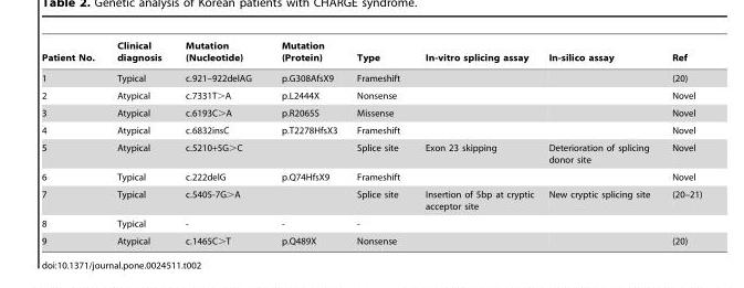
<table><thead><tr><td>Patient No.</td><td>Clinical diagnosis</td><td>Mutation (Nucleotide)</td><td>Mutation (Protein)</td><td>Type</td><td>In-vitro splicing assay</td><td>In-silico assay</td><td>Ref</td></tr></thead><tbody><tr><td>1</td><td>Typical</td><td>c.921–922delAG</td><td>p.G308AfsX9</td><td>Frameshift</td><td></td><td></td><td>(20)</td></tr><tr><td>2</td><td>Atypical</td><td>c.7331T&gt;A</td><td>p.L2444X</td><td>Nonsense</td><td></td><td></td><td>Novel</td></tr><tr><td>3</td><td>Atypical</td><td>c.6193C&gt;A</td><td>p.R2065S</td><td>Missense</td><td></td><td></td><td>Novel</td></tr><tr><td>4</td><td>Atypical</td><td>c.6832insC</td><td>p.T2278HfsX3</td><td>Frameshift</td><td></td><td></td><td>Novel</td></tr><tr><td>5</td><td>Atypical</td><td>c.5210+5G&gt;C</td><td></td><td>Splice site</td><td>Exon 23 skipping</td><td>Deterioration of splicing donor site</td><td>Novel</td></tr><tr><td>6</td><td>Typical</td><td>c.222delG</td><td>p.Q74HfsX9</td><td>Frameshift</td><td></td><td></td><td>Novel</td></tr><tr><td>7</td><td>Typical</td><td>c.5405-7G&gt;A</td><td></td><td>Splice site</td><td>Insertion of 5bp at cryptic acceptor site</td><td>New cryptic splicing site</td><td>(20–21)</td></tr><tr><td>8</td><td>Typical</td><td>-</td><td>-</td><td>-</td><td></td><td></td><td></td></tr><tr><td>9</td><td>Atypical</td><td>c.1465C&gt;T</td><td>p.Q489X</td><td>Nonsense</td><td></td><td></td><td>(20)</td></tr></tbody></table>